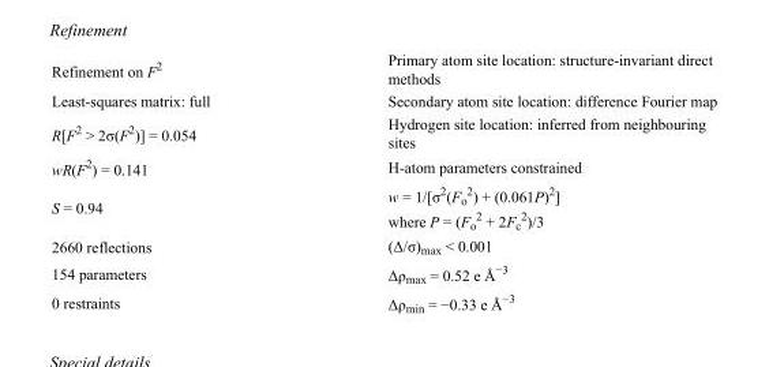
<table><tbody><tr><td>Refinement on F<sup>2</sup></td><td>Primary atom site location: structure-invariant direct methods</td></tr><tr><td>Least-squares matrix: full</td><td>Secondary atom site location: difference Fourier map</td></tr><tr><td>R[F<sup>2</sup> &gt; 2σ(F<sup>2</sup>)] = 0.054</td><td>Hydrogen site location: inferred from neighbouring sites</td></tr><tr><td>wR(F<sup>2</sup>) = 0.141</td><td>H-atom parameters constrained</td></tr><tr><td>S = 0.94</td><td>w = 1/[σ<sup>2</sup>(F<sub>o</sub> <sup>2</sup>) + (0.061P)<sup>2</sup>] where P = (F<sub>o</sub> <sup>2</sup> + 2F<sub>c</sub> <sup>2</sup>)/3</td></tr><tr><td>2660 reflections</td><td>(Δ/σ)<sub>max</sub> &lt; 0.001</td></tr><tr><td>154 parameters</td><td>Δρ<sub>max</sub> = 0.52 e Å<sup>−3</sup></td></tr><tr><td>0 restraints</td><td>Δρ<sub>min</sub> = −0.33 e Å<sup>−3</sup></td></tr></tbody></table>